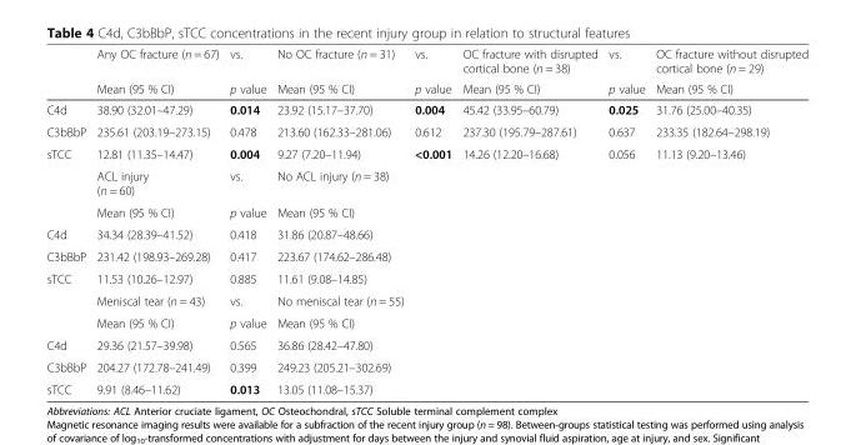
<table><thead><tr><td rowspan="2"></td><td rowspan="2">Any OC fracture (n = 67) Mean (95 % CI)</td><td rowspan="2">vs. p value</td><td rowspan="2">No OC fracture (n = 31) Mean (95 % CI)</td><td rowspan="2">vs. p value</td><td rowspan="2">OC fracture with disrupted cortical bone (n = 38) Mean (95 % CI)</td><td rowspan="2">vs. p value</td><td rowspan="2">OC fracture without disrupted cortical bone (n = 29) Mean (95 % CI)</td></tr><tr></tr></thead><tbody><tr><td>C4d</td><td>38.90 (32.01–47.29)</td><td>0.014</td><td>23.92 (15.17–37.70)</td><td>0.004</td><td>45.42 (33.95–60.79)</td><td>0.025</td><td>31.76 (25.00–40.35)</td></tr><tr><td>C3bBbP</td><td>235.61 (203.19–273.15)</td><td>0.478</td><td>213.60 (162.33–281.06)</td><td>0.612</td><td>237.30 (195.79–287.61)</td><td>0.637</td><td>233.35 (182.64–298.19)</td></tr><tr><td rowspan="3">sTCC</td><td>12.81 (11.35–14.47)</td><td>0.004</td><td>9.27 (7.20–11.94)</td><td>&lt;0.001</td><td>14.26 (12.20–16.68)</td><td>0.056</td><td>11.13 (9.20–13.46)</td></tr><tr><td>ACL injury (n = 60)</td><td>vs.</td><td>No ACL injury (n = 38)</td><td></td><td></td><td></td><td></td></tr><tr><td>Mean (95 % CI)</td><td>p value</td><td>Mean (95 % CI)</td><td></td><td></td><td></td><td></td></tr><tr><td>C4d</td><td>34.34 (28.39–41.52)</td><td>0.418</td><td>31.86 (20.87–48.66)</td><td></td><td></td><td></td><td></td></tr><tr><td>C3bBbP</td><td>231.42 (198.93–269.28)</td><td>0.417</td><td>223.67 (174.62–286.48)</td><td></td><td></td><td></td><td></td></tr><tr><td rowspan="3">sTCC</td><td>11.53 (10.26–12.97)</td><td>0.885</td><td>11.61 (9.08–14.85)</td><td></td><td></td><td></td><td></td></tr><tr><td>Meniscal tear (n = 43)</td><td>vs.</td><td>No meniscal tear (n = 55)</td><td></td><td></td><td></td><td></td></tr><tr><td>Mean (95 % CI)</td><td>p value</td><td>Mean (95 % CI)</td><td></td><td></td><td></td><td></td></tr><tr><td>C4d</td><td>29.36 (21.57–39.98)</td><td>0.565</td><td>36.86 (28.42–47.80)</td><td></td><td></td><td></td><td></td></tr><tr><td>C3bBbP</td><td>204.27 (172.78–241.49)</td><td>0.399</td><td>249.23 (205.21–302.69)</td><td></td><td></td><td></td><td></td></tr><tr><td>sTCC</td><td>9.91 (8.46–11.62)</td><td>0.013</td><td>13.05 (11.08–15.37)</td><td></td><td></td><td></td><td></td></tr></tbody></table>